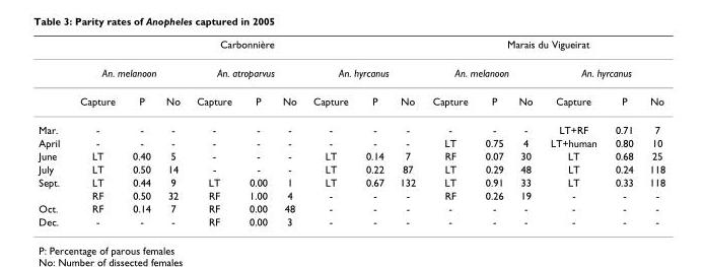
<table><thead><tr><td rowspan="3"></td><td colspan="9">Carbonnière</td><td colspan="6">Marais du Vigueirat</td></tr><tr><td colspan="3">An. melanoon</td><td colspan="3">An. atroparvus</td><td colspan="3">An. hyrcanus</td><td colspan="3">An. melanoon</td><td colspan="3">An. hyrcanus</td></tr><tr><td>Capture</td><td>P</td><td>No</td><td>Capture</td><td>P</td><td>No</td><td>Capture</td><td>P</td><td>No</td><td>Capture</td><td>P</td><td>No</td><td>Capture</td><td>P</td><td>No</td></tr></thead><tbody><tr><td>Mar.</td><td>-</td><td>-</td><td>-</td><td>-</td><td>-</td><td>-</td><td>-</td><td>-</td><td>-</td><td>-</td><td>-</td><td>-</td><td>LT+RF</td><td>0.71</td><td>7</td></tr><tr><td>April</td><td>-</td><td>-</td><td>-</td><td>-</td><td>-</td><td>-</td><td>-</td><td>-</td><td>-</td><td>LT</td><td>0.75</td><td>4</td><td>LT+human</td><td>0.80</td><td>10</td></tr><tr><td>June</td><td>LT</td><td>0.40</td><td>5</td><td>-</td><td>-</td><td>-</td><td>LT</td><td>0.14</td><td>7</td><td>RF</td><td>0.07</td><td>30</td><td>LT</td><td>0.68</td><td>25</td></tr><tr><td>July</td><td>LT</td><td>0.50</td><td>14</td><td>-</td><td>-</td><td>-</td><td>LT</td><td>0.22</td><td>87</td><td>LT</td><td>0.29</td><td>48</td><td>LT</td><td>0.24</td><td>118</td></tr><tr><td rowspan="2">Sept.</td><td>LT</td><td>0.44</td><td>9</td><td>LT</td><td>0.00</td><td>1</td><td>LT</td><td>0.67</td><td>132</td><td>LT</td><td>0.91</td><td>33</td><td>LT</td><td>0.33</td><td>118</td></tr><tr><td>RF</td><td>0.50</td><td>32</td><td>RF</td><td>1.00</td><td>4</td><td>-</td><td>-</td><td>-</td><td>RF</td><td>0.26</td><td>19</td><td>-</td><td>-</td><td>-</td></tr><tr><td>Oct.</td><td>RF</td><td>0.14</td><td>7</td><td>RF</td><td>0.00</td><td>48</td><td>-</td><td>-</td><td>-</td><td>-</td><td>-</td><td>-</td><td>-</td><td>-</td><td>-</td></tr><tr><td>Dec.</td><td>-</td><td>-</td><td>-</td><td>RF</td><td>0.00</td><td>3</td><td>-</td><td>-</td><td>-</td><td>-</td><td>-</td><td>-</td><td>-</td><td>-</td><td>-</td></tr></tbody></table>